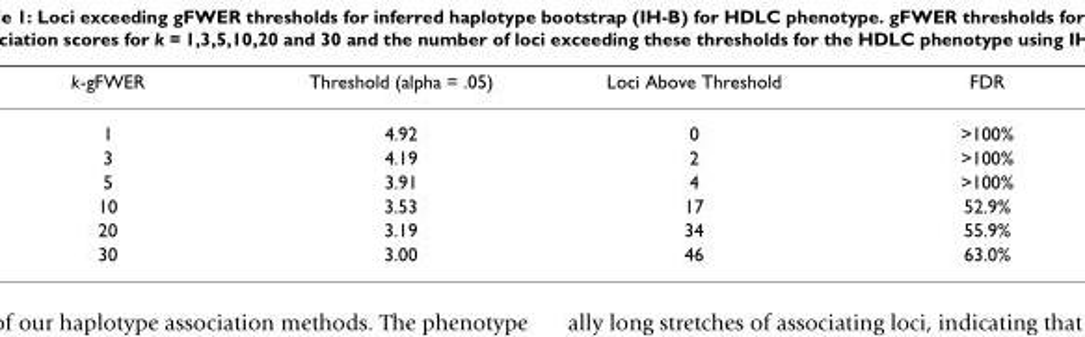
<table><thead><tr><td>k-gFWER</td><td>Threshold (alpha = .05)</td><td>Loci Above Threshold</td><td>FDR</td></tr></thead><tbody><tr><td>1</td><td>4.92</td><td>0</td><td>&gt;100%</td></tr><tr><td>3</td><td>4.19</td><td>2</td><td>&gt;100%</td></tr><tr><td>5</td><td>3.91</td><td>4</td><td>&gt;100%</td></tr><tr><td>10</td><td>3.53</td><td>17</td><td>52.9%</td></tr><tr><td>20</td><td>3.19</td><td>34</td><td>55.9%</td></tr><tr><td>30</td><td>3.00</td><td>46</td><td>63.0%</td></tr></tbody></table>